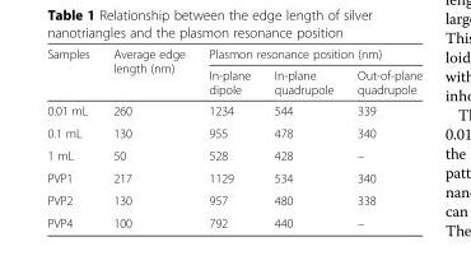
<table><thead><tr><td rowspan="2">Samples</td><td rowspan="2">Average edge length (nm)</td><td colspan="3">Plasmon resonance position (nm)</td></tr><tr><td>In-plane dipole</td><td>In-plane quadrupole</td><td>Out-of-plane quadrupole</td></tr></thead><tbody><tr><td>0.01 mL</td><td>260</td><td>1234</td><td>544</td><td>339</td></tr><tr><td>0.1 mL</td><td>130</td><td>955</td><td>478</td><td>340</td></tr><tr><td>1 mL</td><td>50</td><td>528</td><td>428</td><td>–</td></tr><tr><td>PVP1</td><td>217</td><td>1129</td><td>534</td><td>340</td></tr><tr><td>PVP2</td><td>130</td><td>957</td><td>480</td><td>338</td></tr><tr><td>PVP4</td><td>100</td><td>792</td><td>440</td><td>–</td></tr></tbody></table>